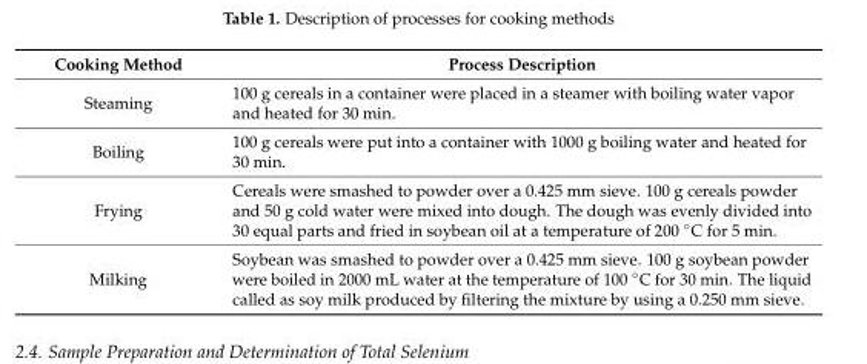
<table><thead><tr><td>Cooking Method</td><td>Process Description</td></tr></thead><tbody><tr><td>Steaming</td><td>100 g cereals in a container were placed in a steamer with boiling water vapor and heated for 30 min.</td></tr><tr><td>Boiling</td><td>100 g cereals were put into a container with 1000 g boiling water and heated for 30 min.</td></tr><tr><td>Frying</td><td>Cereals were smashed to powder over a 0.425 mm sieve. 100 g cereals powder and 50 g cold water were mixed into dough. The dough was evenly divided into 30 equal parts and fried in soybean oil at a temperature of 200 ◦C for 5 min.</td></tr><tr><td>Milking</td><td>Soybean was smashed to powder over a 0.425 mm sieve. 100 g soybean powder were boiled in 2000 mL water at the temperature of 100 ◦C for 30 min. The liquid called as soy milk produced by filtering the mixture by using a 0.250 mm sieve.</td></tr></tbody></table>